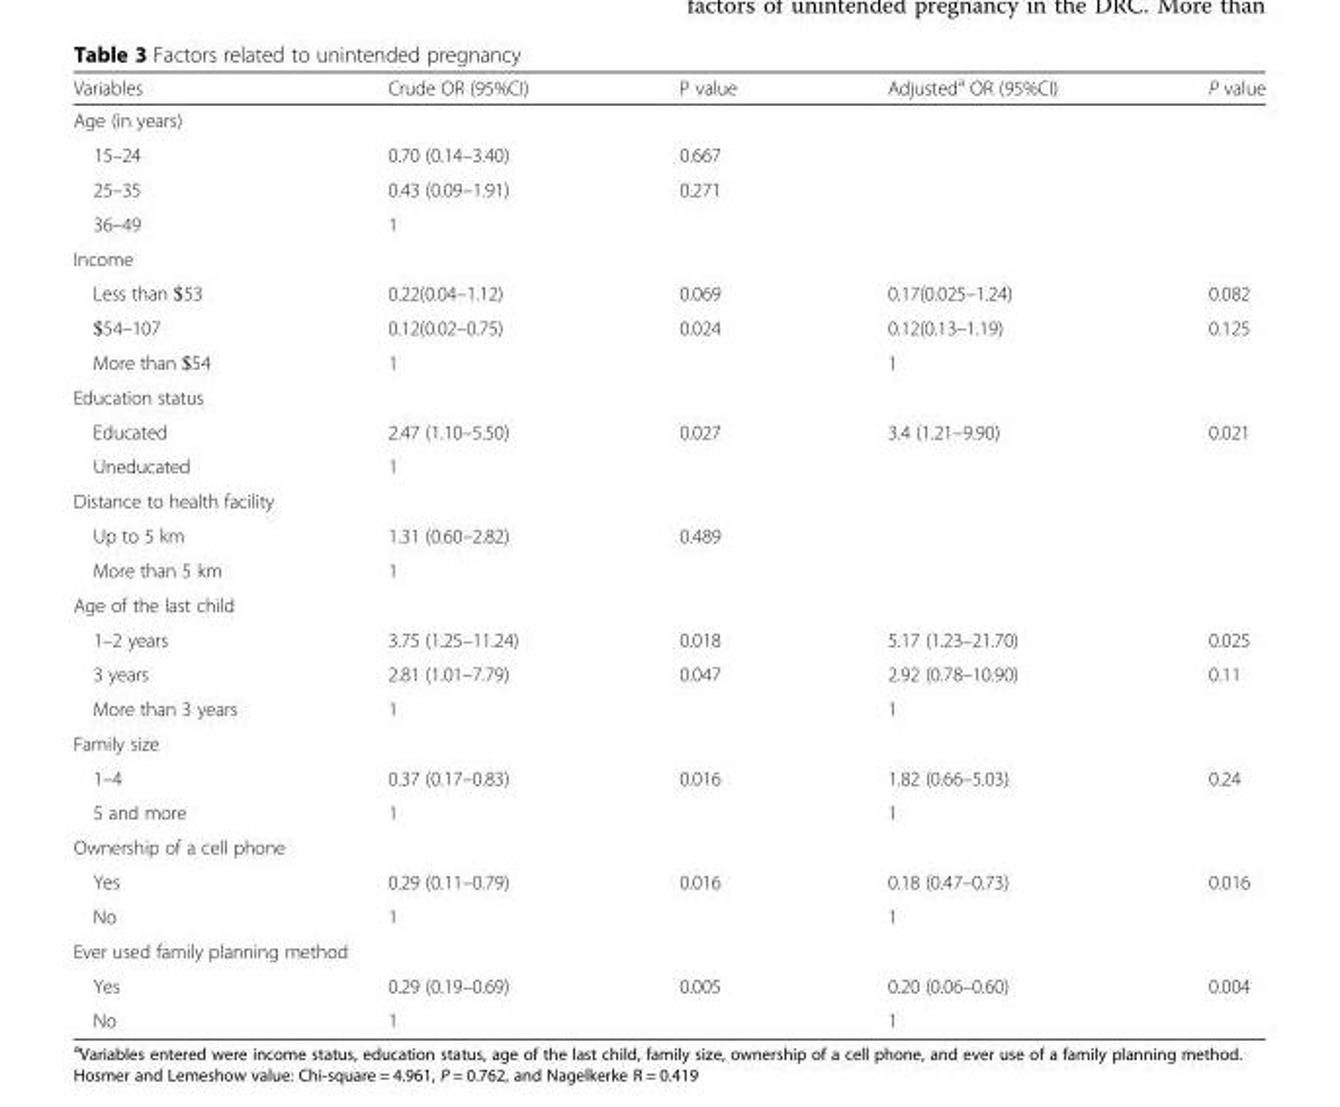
<table><thead><tr><td>Variables</td><td>Crude OR (95%CI)</td><td>P value</td><td>Adjusted<sup>a</sup> OR (95%CI)</td><td>P value</td></tr></thead><tbody><tr><td colspan="5">Age (in years)</td></tr><tr><td>15–24</td><td>0.70 (0.14–3.40)</td><td>0.667</td><td></td><td></td></tr><tr><td>25–35</td><td>0.43 (0.09–1.91)</td><td>0.271</td><td></td><td></td></tr><tr><td>36–49</td><td>1</td><td></td><td></td><td></td></tr><tr><td colspan="5">Income</td></tr><tr><td>Less than $53</td><td>0.22(0.04–1.12)</td><td>0.069</td><td>0.17(0.025–1.24)</td><td>0.082</td></tr><tr><td>$54–107</td><td>0.12(0.02–0.75)</td><td>0.024</td><td>0.12(0.13–1.19)</td><td>0.125</td></tr><tr><td>More than $54</td><td>1</td><td></td><td>1</td><td></td></tr><tr><td colspan="5">Education status</td></tr><tr><td>Educated</td><td>2.47 (1.10–5.50)</td><td>0.027</td><td>3.4 (1.21–9.90)</td><td>0.021</td></tr><tr><td>Uneducated</td><td>1</td><td></td><td></td><td></td></tr><tr><td colspan="5">Distance to health facility</td></tr><tr><td>Up to 5 km</td><td>1.31 (0.60–2.82)</td><td>0.489</td><td></td><td></td></tr><tr><td>More than 5 km</td><td>1</td><td></td><td></td><td></td></tr><tr><td colspan="5">Age of the last child</td></tr><tr><td>1–2 years</td><td>3.75 (1.25–11.24)</td><td>0.018</td><td>5.17 (1.23–21.70)</td><td>0.025</td></tr><tr><td>3 years</td><td>2.81 (1.01–7.79)</td><td>0.047</td><td>2.92 (0.78–10.90)</td><td>0.11</td></tr><tr><td>More than 3 years</td><td>1</td><td></td><td>1</td><td></td></tr><tr><td colspan="5">Family size</td></tr><tr><td>1–4</td><td>0.37 (0.17–0.83)</td><td>0.016</td><td>1.82 (0.66–5.03)</td><td>0.24</td></tr><tr><td>5 and more</td><td>1</td><td></td><td>1</td><td></td></tr><tr><td colspan="5">Ownership of a cell phone</td></tr><tr><td>Yes</td><td>0.29 (0.11–0.79)</td><td>0.016</td><td>0.18 (0.47–0.73)</td><td>0.016</td></tr><tr><td>No</td><td>1</td><td></td><td>1</td><td></td></tr><tr><td colspan="5">Ever used family planning method</td></tr><tr><td>Yes</td><td>0.29 (0.19–0.69)</td><td>0.005</td><td>0.20 (0.06–0.60)</td><td>0.004</td></tr><tr><td>No</td><td>1</td><td></td><td>1</td><td></td></tr></tbody></table>